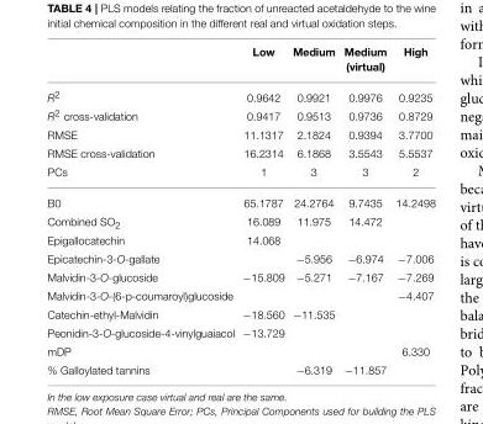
<table><thead><tr><td></td><td>Low</td><td>Medium</td><td>Medium (virtual)</td><td>High</td></tr></thead><tbody><tr><td>R<sup>2</sup></td><td>0.9642</td><td>0.9921</td><td>0.9976</td><td>0.9235</td></tr><tr><td>R<sup>2</sup> cross-validation</td><td>0.9417</td><td>0.9513</td><td>0.9736</td><td>0.8729</td></tr><tr><td>RMSE</td><td>11.1317</td><td>2.1824</td><td>0.9394</td><td>3.7700</td></tr><tr><td>RMSE cross-validation</td><td>16.2314</td><td>6.1868</td><td>3.5543</td><td>5.5537</td></tr><tr><td>PCs</td><td>1</td><td>3</td><td>3</td><td>2</td></tr><tr><td>B0</td><td>65.1787</td><td>24.2764</td><td>9.7435</td><td>14.2498</td></tr><tr><td>Combined SO<sub>2</sub></td><td>16.089</td><td>11.975</td><td>14.472</td><td></td></tr><tr><td>Epigallocatechin</td><td>14.068</td><td></td><td></td><td></td></tr><tr><td>Epicatechin-3-O-gallate</td><td></td><td>−5.956</td><td>−6.974</td><td>−7.006</td></tr><tr><td>Malvidin-3-O-glucoside</td><td>−15.809</td><td>−5.271</td><td>−7.167</td><td>−7.269</td></tr><tr><td>Malvidin-3-O-(6-p-coumaroyl)glucoside</td><td></td><td></td><td></td><td>−4.407</td></tr><tr><td>Catechin-ethyl-Malvidin</td><td>−18.560</td><td>−11.535</td><td></td><td></td></tr><tr><td>Peonidin-3-O-glucoside-4-vinylguaiacol</td><td>−13.729</td><td></td><td></td><td></td></tr><tr><td>mDP</td><td></td><td></td><td></td><td>6.330</td></tr><tr><td>% Galloylated tannins</td><td></td><td>−6.319</td><td>−11.857</td><td></td></tr></tbody></table>